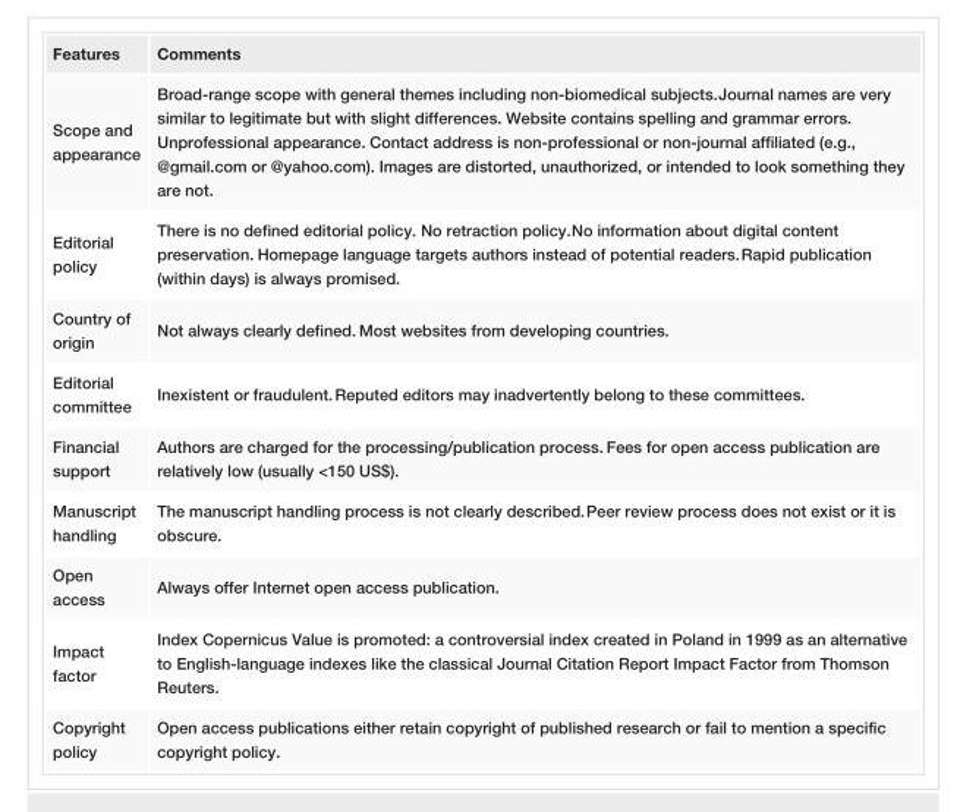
<table><tbody><tr><td>Features</td><td>Comments</td></tr><tr><td>Scope and appearance</td><td>Broad-range scope with general themes including non-biomedical subjects. Journal names are very similar to legitimate but with slight differences. Website contains spelling and grammar errors. Unprofessional appearance. Contact address is non-professional or non-journal affiliated (e.g., @gmail.com or @yahoo.com). Images are distorted, unauthorized, or intended to look something they are not.</td></tr><tr><td>Editorial policy</td><td>There is no defined editorial policy. No retraction policy. No information about digital content preservation. Homepage language targets authors instead of potential readers. Rapid publication (within days) is always promised.</td></tr><tr><td>Country of origin</td><td>Not always clearly defined. Most websites from developing countries.</td></tr><tr><td>Editorial committee</td><td>Inexistent or fraudulent. Reputed editors may inadvertently belong to these committees.</td></tr><tr><td>Financial support</td><td>Authors are charged for the processing/publication process. Fees for open access publication are relatively low (usually &lt;150 US$).</td></tr><tr><td>Manuscript handling</td><td>The manuscript handling process is not clearly described. Peer review process does not exist or it is obscure.</td></tr><tr><td>Open access</td><td>Always offer Internet open access publication.</td></tr><tr><td>Impact factor</td><td>Index Copernicus Value is promoted: a controversial index created in Poland in 1999 as an alternative to English-language indexes like the classical Journal Citation Report Impact Factor from Thomson Reuters.</td></tr><tr><td>Copyright policy</td><td>Open access publications either retain copyright of published research or fail to mention a specific copyright policy.</td></tr></tbody></table>